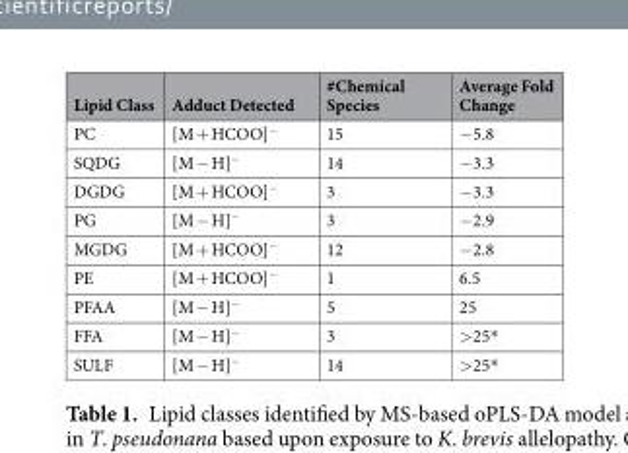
<table><thead><tr><td>Lipid Class</td><td>Adduct Detected</td><td>#Chemical Species</td><td>Average Fold Change</td></tr></thead><tbody><tr><td>PC</td><td>[M + HCOO]<sup>−</sup></td><td>15</td><td>−5.8</td></tr><tr><td>SQDG</td><td>[M − H]<sup>−</sup></td><td>14</td><td>−3.3</td></tr><tr><td>DGDG</td><td>[M + HCOO]<sup>−</sup></td><td>3</td><td>−3.3</td></tr><tr><td>PG</td><td>[M − H]<sup>−</sup></td><td>3</td><td>−2.9</td></tr><tr><td>MGDG</td><td>[M + HCOO]<sup>−</sup></td><td>12</td><td>−2.8</td></tr><tr><td>PE</td><td>[M + HCOO]<sup>−</sup></td><td>1</td><td>6.5</td></tr><tr><td>PFAA</td><td>[M − H]<sup>−</sup></td><td>5</td><td>25</td></tr><tr><td>FFA</td><td>[M − H]<sup>−</sup></td><td>3</td><td>&gt;25*</td></tr><tr><td>SULF</td><td>[M − H]<sup>−</sup></td><td>14</td><td>&gt;25*</td></tr></tbody></table>